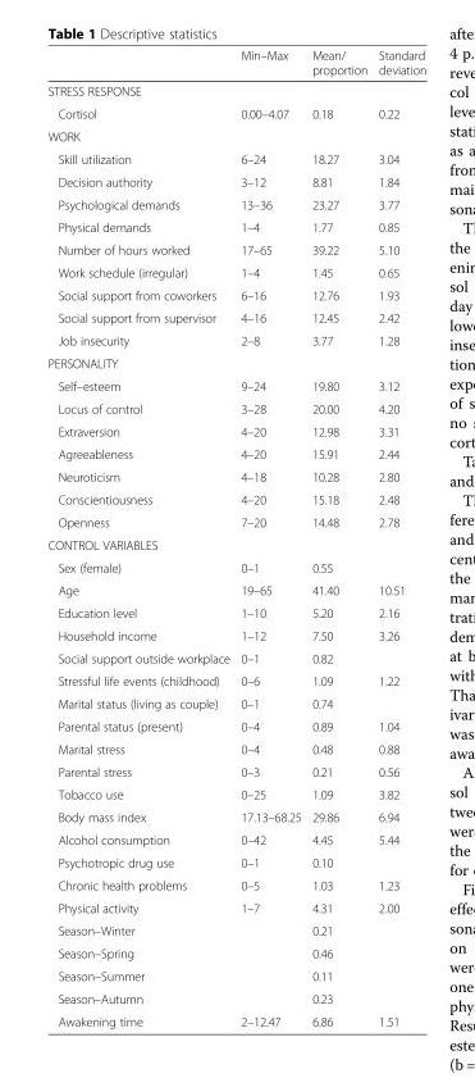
<table><thead><tr><td></td><td>Min–Max</td><td>Mean/ proportion</td><td>Standard deviation</td></tr></thead><tbody><tr><td colspan="4">STRESS RESPONSE</td></tr><tr><td>Cortisol</td><td>0.00–4.07</td><td>0.18</td><td>0.22</td></tr><tr><td colspan="4">WORK</td></tr><tr><td>Skill utilization</td><td>6–24</td><td>18.27</td><td>3.04</td></tr><tr><td>Decision authority</td><td>3–12</td><td>8.81</td><td>1.84</td></tr><tr><td>Psychological demands</td><td>13–36</td><td>23.27</td><td>3.77</td></tr><tr><td>Physical demands</td><td>1–4</td><td>1.77</td><td>0.85</td></tr><tr><td>Number of hours worked</td><td>17–65</td><td>39.22</td><td>5.10</td></tr><tr><td>Work schedule (irregular)</td><td>1–4</td><td>1.45</td><td>0.65</td></tr><tr><td>Social support from coworkers</td><td>6–16</td><td>12.76</td><td>1.93</td></tr><tr><td>Social support from supervisor</td><td>4–16</td><td>12.45</td><td>2.42</td></tr><tr><td>Job insecurity</td><td>2–8</td><td>3.77</td><td>1.28</td></tr><tr><td colspan="4">PERSONALITY</td></tr><tr><td>Self–esteem</td><td>9–24</td><td>19.80</td><td>3.12</td></tr><tr><td>Locus of control</td><td>3–28</td><td>20.00</td><td>4.20</td></tr><tr><td>Extraversion</td><td>4–20</td><td>12.98</td><td>3.31</td></tr><tr><td>Agreeableness</td><td>4–20</td><td>15.91</td><td>2.44</td></tr><tr><td>Neuroticism</td><td>4–18</td><td>10.28</td><td>2.80</td></tr><tr><td>Conscientiousness</td><td>4–20</td><td>15.18</td><td>2.48</td></tr><tr><td>Openness</td><td>7–20</td><td>14.48</td><td>2.78</td></tr><tr><td colspan="4">CONTROL VARIABLES</td></tr><tr><td>Sex (female)</td><td>0–1</td><td>0.55</td><td></td></tr><tr><td>Age</td><td>19–65</td><td>41.40</td><td>10.51</td></tr><tr><td>Education level</td><td>1–10</td><td>5.20</td><td>2.16</td></tr><tr><td>Household income</td><td>1–12</td><td>7.50</td><td>3.26</td></tr><tr><td>Social support outside workplace</td><td>0–1</td><td>0.82</td><td></td></tr><tr><td>Stressful life events (childhood)</td><td>0–6</td><td>1.09</td><td>1.22</td></tr><tr><td>Marital status (living as couple)</td><td>0–1</td><td>0.74</td><td></td></tr><tr><td>Parental status (present)</td><td>0–4</td><td>0.89</td><td>1.04</td></tr><tr><td>Marital stress</td><td>0–4</td><td>0.48</td><td>0.88</td></tr><tr><td>Parental stress</td><td>0–3</td><td>0.21</td><td>0.56</td></tr><tr><td>Tobacco use</td><td>0–25</td><td>1.09</td><td>3.82</td></tr><tr><td>Body mass index</td><td>17.13–68.25</td><td>29.86</td><td>6.94</td></tr><tr><td>Alcohol consumption</td><td>0–42</td><td>4.45</td><td>5.44</td></tr><tr><td>Psychotropic drug use</td><td>0–1</td><td>0.10</td><td></td></tr><tr><td>Chronic health problems</td><td>0–5</td><td>1.03</td><td>1.23</td></tr><tr><td>Physical activity</td><td>1–7</td><td>4.31</td><td>2.00</td></tr><tr><td>Season–Winter</td><td></td><td>0.21</td><td></td></tr><tr><td>Season–Spring</td><td></td><td>0.46</td><td></td></tr><tr><td>Season–Summer</td><td></td><td>0.11</td><td></td></tr><tr><td>Season–Autumn</td><td></td><td>0.23</td><td></td></tr><tr><td>Awakening time</td><td>2–12.47</td><td>6.86</td><td>1.51</td></tr></tbody></table>